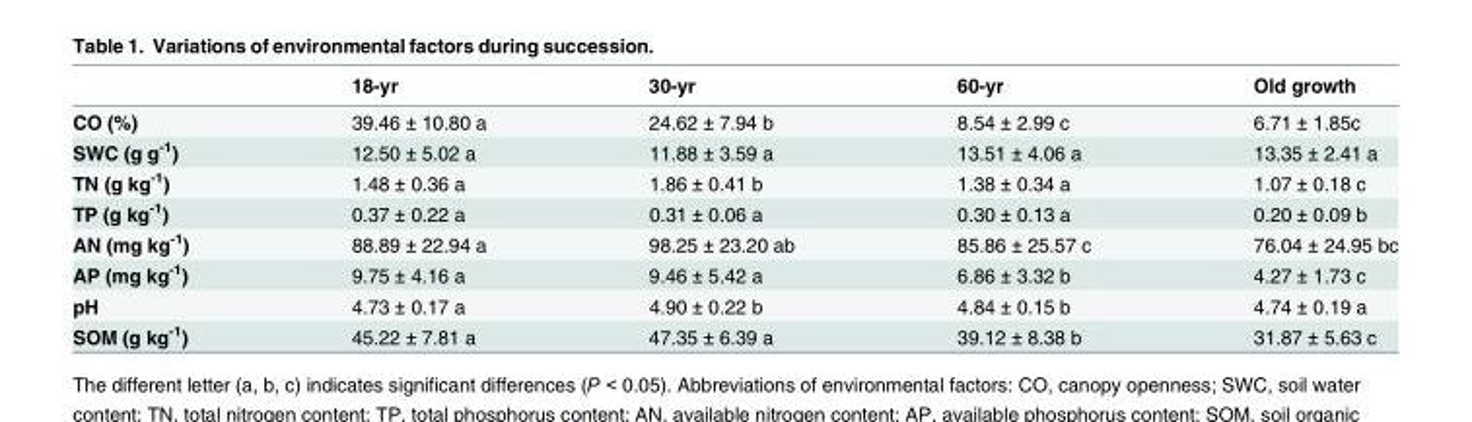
<table><thead><tr><td></td><td>18-yr</td><td>30-yr</td><td>60-yr</td><td>Old growth</td></tr></thead><tbody><tr><td>CO (%)</td><td>39.46 ± 10.80 a</td><td>24.62 ± 7.94 b</td><td>8.54 ± 2.99 c</td><td>6.71 ± 1.85c</td></tr><tr><td>SWC (g g<sup>-1</sup>)</td><td>12.50 ± 5.02 a</td><td>11.88 ± 3.59 a</td><td>13.51 ± 4.06 a</td><td>13.35 ± 2.41 a</td></tr><tr><td>TN (g kg<sup>-1</sup>)</td><td>1.48 ± 0.36 a</td><td>1.86 ± 0.41 b</td><td>1.38 ± 0.34 a</td><td>1.07 ± 0.18 c</td></tr><tr><td>TP (g kg<sup>-1</sup>)</td><td>0.37 ± 0.22 a</td><td>0.31 ± 0.06 a</td><td>0.30 ± 0.13 a</td><td>0.20 ± 0.09 b</td></tr><tr><td>AN (mg kg<sup>-1</sup>)</td><td>88.89 ± 22.94 a</td><td>98.25 ± 23.20 ab</td><td>85.86 ± 25.57 c</td><td>76.04 ± 24.95 bc</td></tr><tr><td>AP (mg kg<sup>-1</sup>)</td><td>9.75 ± 4.16 a</td><td>9.46 ± 5.42 a</td><td>6.86 ± 3.32 b</td><td>4.27 ± 1.73 c</td></tr><tr><td>pH</td><td>4.73 ± 0.17 a</td><td>4.90 ± 0.22 b</td><td>4.84 ± 0.15 b</td><td>4.74 ± 0.19 a</td></tr><tr><td>SOM (g kg<sup>-1</sup>)</td><td>45.22 ± 7.81 a</td><td>47.35 ± 6.39 a</td><td>39.12 ± 8.38 b</td><td>31.87 ± 5.63 c</td></tr></tbody></table>